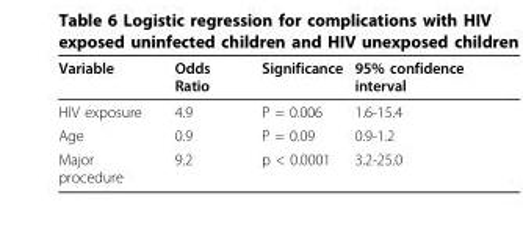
<table><thead><tr><td>Variable</td><td>Odds Ratio</td><td>Significance</td><td>95% confidence interval</td></tr></thead><tbody><tr><td>HIV exposure</td><td>4.9</td><td>P = 0.006</td><td>1.6-15.4</td></tr><tr><td>Age</td><td>0.9</td><td>P = 0.09</td><td>0.9-1.2</td></tr><tr><td>Major procedure</td><td>9.2</td><td>p &lt; 0.0001</td><td>3.2-25.0</td></tr></tbody></table>